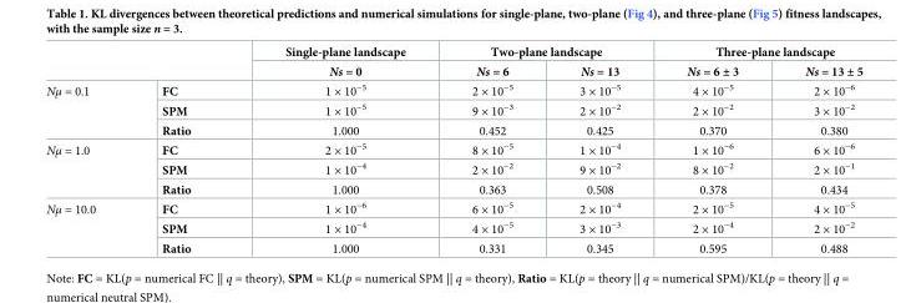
<table><thead><tr><td rowspan="2"></td><td rowspan="2"></td><td rowspan="2">Single-plane landscape Ns = 0</td><td colspan="2">Two-plane landscape</td><td colspan="2">Three-plane landscape</td></tr><tr><td>Ns = 6</td><td>Ns = 13</td><td>Ns = 6 ± 3</td><td>Ns = 13 ± 5</td></tr></thead><tbody><tr><td rowspan="3">Nμ = 0.1</td><td>FC</td><td>1 × 10<sup>−5</sup></td><td>2 × 10<sup>−5</sup></td><td>3 × 10<sup>−5</sup></td><td>4 × 10<sup>−5</sup></td><td>2 × 10<sup>−6</sup></td></tr><tr><td>SPM</td><td>1 × 10<sup>−5</sup></td><td>9 × 10<sup>−3</sup></td><td>2 × 10<sup>−2</sup></td><td>2 × 10<sup>−2</sup></td><td>3 × 10<sup>−2</sup></td></tr><tr><td>Ratio</td><td>1.000</td><td>0.452</td><td>0.425</td><td>0.370</td><td>0.380</td></tr><tr><td rowspan="3">Nμ = 1.0</td><td>FC</td><td>2 × 10<sup>−5</sup></td><td>8 × 10<sup>−5</sup></td><td>1 × 10<sup>−4</sup></td><td>1 × 10<sup>−6</sup></td><td>6 × 10<sup>−6</sup></td></tr><tr><td>SPM</td><td>1 × 10<sup>−4</sup></td><td>2 × 10<sup>−2</sup></td><td>9 × 10<sup>−2</sup></td><td>8 × 10<sup>−2</sup></td><td>2 × 10<sup>−1</sup></td></tr><tr><td>Ratio</td><td>1.000</td><td>0.363</td><td>0.508</td><td>0.378</td><td>0.434</td></tr><tr><td rowspan="3">Nμ = 10.0</td><td>FC</td><td>1 × 10<sup>−6</sup></td><td>6 × 10<sup>−5</sup></td><td>2 × 10<sup>−4</sup></td><td>2 × 10<sup>−5</sup></td><td>4 × 10<sup>−5</sup></td></tr><tr><td>SPM</td><td>1 × 10<sup>−4</sup></td><td>4 × 10<sup>−5</sup></td><td>3 × 10<sup>−3</sup></td><td>2 × 10<sup>−4</sup></td><td>2 × 10<sup>−2</sup></td></tr><tr><td>Ratio</td><td>1.000</td><td>0.331</td><td>0.345</td><td>0.595</td><td>0.488</td></tr></tbody></table>